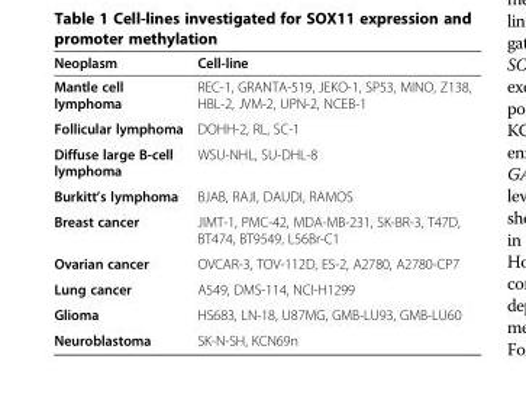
<table><thead><tr><td>Neoplasm</td><td>Cell-line</td></tr></thead><tbody><tr><td>Mantle cell lymphoma</td><td>REC-1, GRANTA-519, JEKO-1, SP53, MINO, Z138, HBL-2, JVM-2, UPN-2, NCEB-1</td></tr><tr><td>Follicular lymphoma</td><td>DOHH-2, RL, SC-1</td></tr><tr><td>Diffuse large B-cell lymphoma</td><td>WSU-NHL, SU-DHL-8</td></tr><tr><td>Burkitt’s lymphoma</td><td>BJAB, RAJI, DAUDI, RAMOS</td></tr><tr><td>Breast cancer</td><td>JIMT-1, PMC-42, MDA-MB-231, SK-BR-3, T47D, BT474, BT9549, L56Br-C1</td></tr><tr><td>Ovarian cancer</td><td>OVCAR-3, TOV-112D, ES-2, A2780, A2780-CP7</td></tr><tr><td>Lung cancer</td><td>A549, DMS-114, NCI-H1299</td></tr><tr><td>Glioma</td><td>HS683, LN-18, U87MG, GMB-LU93, GMB-LU60</td></tr><tr><td>Neuroblastoma</td><td>SK-N-SH, KCN69n</td></tr></tbody></table>